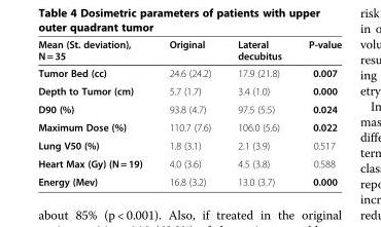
<table><thead><tr><td>Mean (St. deviation), N = 35</td><td>Original</td><td>Lateral decubitus</td><td>P-value</td></tr></thead><tbody><tr><td>Tumor Bed (cc)</td><td>24.6 (24.2)</td><td>17.9 (21.8)</td><td>0.007</td></tr><tr><td>Depth to Tumor (cm)</td><td>5.7 (1.7)</td><td>3.4 (1.0)</td><td>0.000</td></tr><tr><td>D90 (%)</td><td>93.8 (4.7)</td><td>97.5 (5.5)</td><td>0.024</td></tr><tr><td>Maximum Dose (%)</td><td>110.7 (7.6)</td><td>106.0 (5.6)</td><td>0.022</td></tr><tr><td>Lung V50 (%)</td><td>1.8 (3.1)</td><td>2.1 (3.9)</td><td>0.517</td></tr><tr><td>Heart Max (Gy) (N = 19)</td><td>4.0 (3.6)</td><td>4.5 (3.8)</td><td>0.588</td></tr><tr><td>Energy (Mev)</td><td>16.8 (3.2)</td><td>13.0 (3.7)</td><td>0.000</td></tr></tbody></table>